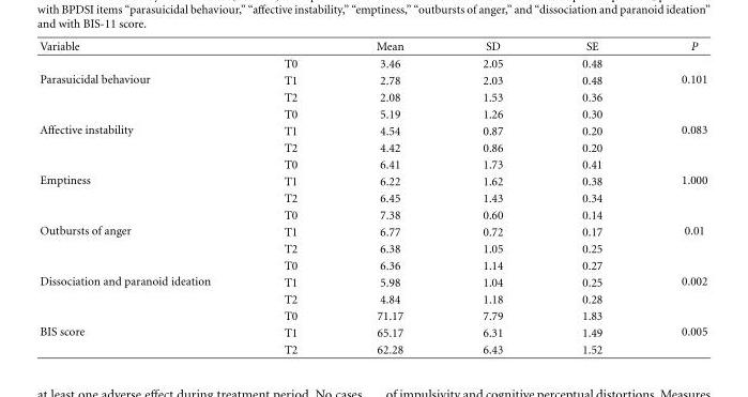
<table><thead><tr><td>Variable</td><td></td><td>Mean</td><td>SD</td><td>SE</td><td>P</td></tr></thead><tbody><tr><td rowspan="3">Parasuicidal behaviour</td><td>T0</td><td>3.46</td><td>2.05</td><td>0.48</td><td rowspan="3">0.101</td></tr><tr><td>T1</td><td>2.78</td><td>2.03</td><td>0.48</td></tr><tr><td>T2</td><td>2.08</td><td>1.53</td><td>0.36</td></tr><tr><td rowspan="3">Affective instability</td><td>T0</td><td>5.19</td><td>1.26</td><td>0.30</td><td rowspan="3">0.083</td></tr><tr><td>T1</td><td>4.54</td><td>0.87</td><td>0.20</td></tr><tr><td>T2</td><td>4.42</td><td>0.86</td><td>0.20</td></tr><tr><td rowspan="3">Emptiness</td><td>T0</td><td>6.41</td><td>1.73</td><td>0.41</td><td rowspan="3">1.000</td></tr><tr><td>T1</td><td>6.22</td><td>1.62</td><td>0.38</td></tr><tr><td>T2</td><td>6.45</td><td>1.43</td><td>0.34</td></tr><tr><td rowspan="3">Outbursts of anger</td><td>T0</td><td>7.38</td><td>0.60</td><td>0.14</td><td rowspan="3">0.01</td></tr><tr><td>T1</td><td>6.77</td><td>0.72</td><td>0.17</td></tr><tr><td>T2</td><td>6.38</td><td>1.05</td><td>0.25</td></tr><tr><td rowspan="3">Dissociation and paranoid ideation</td><td>T0</td><td>6.36</td><td>1.14</td><td>0.27</td><td rowspan="3">0.002</td></tr><tr><td>T1</td><td>5.98</td><td>1.04</td><td>0.25</td></tr><tr><td>T2</td><td>4.84</td><td>1.18</td><td>0.28</td></tr><tr><td rowspan="3">BIS score</td><td>T0</td><td>71.17</td><td>7.79</td><td>1.83</td><td rowspan="3">0.005</td></tr><tr><td>T1</td><td>65.17</td><td>6.31</td><td>1.49</td></tr><tr><td>T2</td><td>62.28</td><td>6.43</td><td>1.52</td></tr></tbody></table>